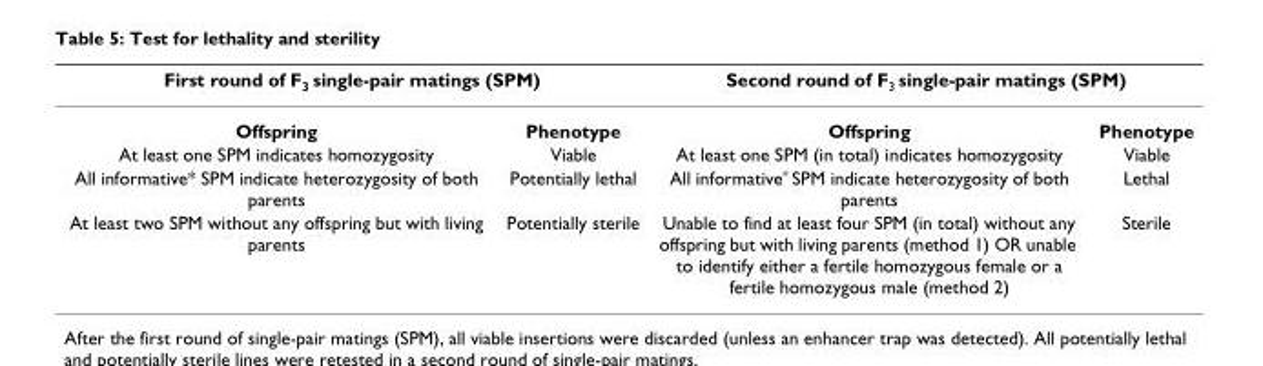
<table><thead><tr><td colspan="2">First round of F<sub>3</sub> single-pair matings (SPM)</td><td colspan="2">Second round of F<sub>3</sub> single-pair matings (SPM)</td></tr><tr><td>Offspring</td><td>Phenotype</td><td>Offspring</td><td>Phenotype</td></tr></thead><tbody><tr><td>At least one SPM indicates homozygosity</td><td>Viable</td><td>At least one SPM (in total) indicates homozygosity</td><td>Viable</td></tr><tr><td>All informative* SPM indicate heterozygosity of both parents</td><td>Potentially lethal</td><td>All informative* SPM indicate heterozygosity of both parents</td><td>Lethal</td></tr><tr><td>At least two SPM without any offspring but with living parents</td><td>Potentially sterile</td><td>Unable to find at least four SPM (in total) without any offspring but with living parents (method 1) OR unable to identify either a fertile homozygous female or a fertile homozygous male (method 2)</td><td>Sterile</td></tr></tbody></table>